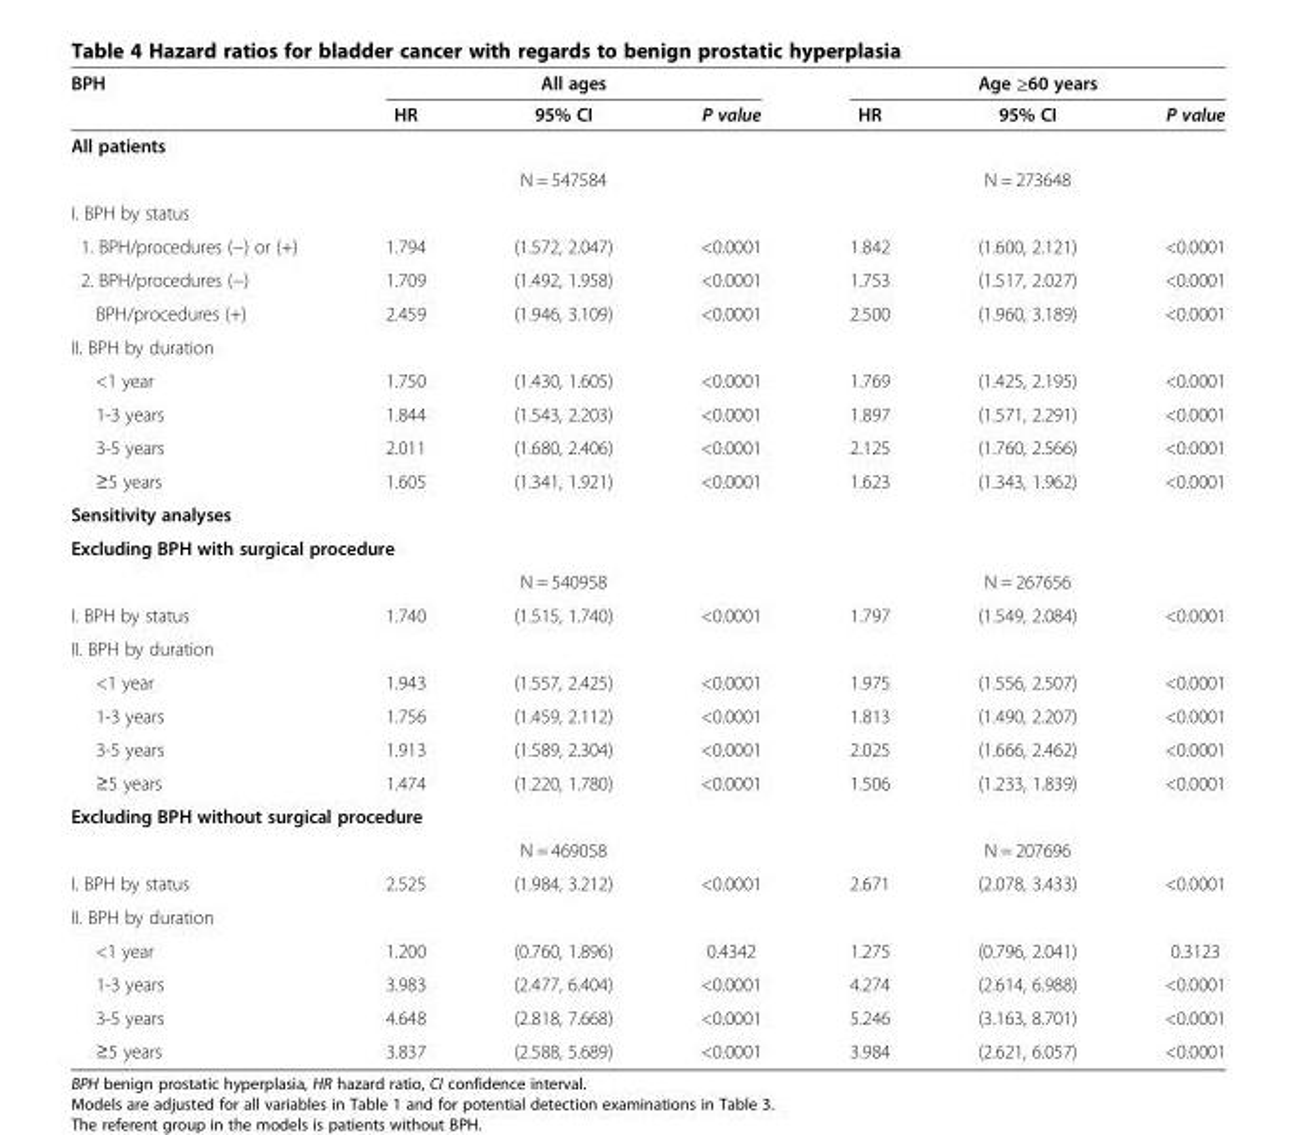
<table><thead><tr><td rowspan="2">BPH</td><td colspan="3">All ages</td><td colspan="3">Age ≥60 years</td></tr><tr><td>HR</td><td>95% CI</td><td>P value</td><td>HR</td><td>95% CI</td><td>P value</td></tr></thead><tbody><tr><td colspan="7">All patients</td></tr><tr><td></td><td></td><td>N = 547584</td><td></td><td></td><td>N = 273648</td><td></td></tr><tr><td colspan="7">I. BPH by status</td></tr><tr><td>1. BPH/procedures (−) or (+)</td><td>1.794</td><td>(1.572, 2.047)</td><td>&lt;0.0001</td><td>1.842</td><td>(1.600, 2.121)</td><td>&lt;0.0001</td></tr><tr><td>2. BPH/procedures (−)</td><td>1.709</td><td>(1.492, 1.958)</td><td>&lt;0.0001</td><td>1.753</td><td>(1.517, 2.027)</td><td>&lt;0.0001</td></tr><tr><td>BPH/procedures (+)</td><td>2.459</td><td>(1.946, 3.109)</td><td>&lt;0.0001</td><td>2.500</td><td>(1.960, 3.189)</td><td>&lt;0.0001</td></tr><tr><td colspan="7">II. BPH by duration</td></tr><tr><td>&lt;1 year</td><td>1.750</td><td>(1.430, 1.605)</td><td>&lt;0.0001</td><td>1.769</td><td>(1.425, 2.195)</td><td>&lt;0.0001</td></tr><tr><td>1-3 years</td><td>1.844</td><td>(1.543, 2.203)</td><td>&lt;0.0001</td><td>1.897</td><td>(1.571, 2.291)</td><td>&lt;0.0001</td></tr><tr><td>3-5 years</td><td>2.011</td><td>(1.680, 2.406)</td><td>&lt;0.0001</td><td>2.125</td><td>(1.760, 2.566)</td><td>&lt;0.0001</td></tr><tr><td>≥5 years</td><td>1.605</td><td>(1.341, 1.921)</td><td>&lt;0.0001</td><td>1.623</td><td>(1.343, 1.962)</td><td>&lt;0.0001</td></tr><tr><td colspan="7">Sensitivity analyses</td></tr><tr><td colspan="7">Excluding BPH with surgical procedure</td></tr><tr><td></td><td></td><td>N = 540958</td><td></td><td></td><td>N = 267656</td><td></td></tr><tr><td>I. BPH by status</td><td>1.740</td><td>(1.515, 1.740)</td><td>&lt;0.0001</td><td>1.797</td><td>(1.549, 2.084)</td><td>&lt;0.0001</td></tr><tr><td colspan="7">II. BPH by duration</td></tr><tr><td>&lt;1 year</td><td>1.943</td><td>(1.557, 2.425)</td><td>&lt;0.0001</td><td>1.975</td><td>(1.556, 2.507)</td><td>&lt;0.0001</td></tr><tr><td>1-3 years</td><td>1.756</td><td>(1.459, 2.112)</td><td>&lt;0.0001</td><td>1.813</td><td>(1.490, 2.207)</td><td>&lt;0.0001</td></tr><tr><td>3-5 years</td><td>1.913</td><td>(1.589, 2.304)</td><td>&lt;0.0001</td><td>2.025</td><td>(1.666, 2.462)</td><td>&lt;0.0001</td></tr><tr><td>≥5 years</td><td>1.474</td><td>(1.220, 1.780)</td><td>&lt;0.0001</td><td>1.506</td><td>(1.233, 1.839)</td><td>&lt;0.0001</td></tr><tr><td colspan="7">Excluding BPH without surgical procedure</td></tr><tr><td></td><td></td><td>N = 469058</td><td></td><td></td><td>N = 207696</td><td></td></tr><tr><td>I. BPH by status</td><td>2.525</td><td>(1.984, 3.212)</td><td>&lt;0.0001</td><td>2.671</td><td>(2.078, 3.433)</td><td>&lt;0.0001</td></tr><tr><td colspan="7">II. BPH by duration</td></tr><tr><td>&lt;1 year</td><td>1.200</td><td>(0.760, 1.896)</td><td>0.4342</td><td>1.275</td><td>(0.796, 2.041)</td><td>0.3123</td></tr><tr><td>1-3 years</td><td>3.983</td><td>(2.477, 6.404)</td><td>&lt;0.0001</td><td>4.274</td><td>(2.614, 6.988)</td><td>&lt;0.0001</td></tr><tr><td>3-5 years</td><td>4.648</td><td>(2.818, 7.668)</td><td>&lt;0.0001</td><td>5.246</td><td>(3.163, 8.701)</td><td>&lt;0.0001</td></tr><tr><td>≥5 years</td><td>3.837</td><td>(2.588, 5.689)</td><td>&lt;0.0001</td><td>3.984</td><td>(2.621, 6.057)</td><td>&lt;0.0001</td></tr></tbody></table>